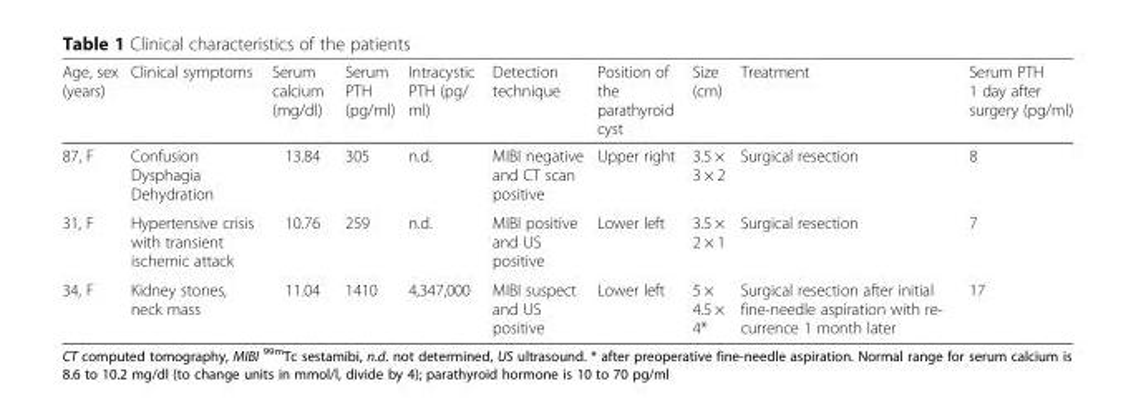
<table><thead><tr><td>Age, sex (years)</td><td>Clinical symptoms</td><td>Serum calcium (mg/dl)</td><td>Serum PTH (pg/ml)</td><td>Intracystic PTH (pg/ ml)</td><td>Detection technique</td><td>Position of the parathyroid cyst</td><td>Size (cm)</td><td>Treatment</td><td>Serum PTH 1 day after surgery (pg/ml)</td></tr></thead><tbody><tr><td>87, F</td><td>Confusion Dysphagia Dehydration</td><td>13.84</td><td>305</td><td>n.d.</td><td>MIBI negative and CT scan positive</td><td>Upper right</td><td>3.5 × 3 × 2</td><td>Surgical resection</td><td>8</td></tr><tr><td>31, F</td><td>Hypertensive crisis with transient ischemic attack</td><td>10.76</td><td>259</td><td>n.d.</td><td>MIBI positive and US positive</td><td>Lower left</td><td>3.5 × 2 × 1</td><td>Surgical resection</td><td>7</td></tr><tr><td>34, F</td><td>Kidney stones, neck mass</td><td>11.04</td><td>1410</td><td>4,347,000</td><td>MIBI suspect and US positive</td><td>Lower left</td><td>5 × 4.5 × 4*</td><td>Surgical resection after initial fine-needle aspiration with re- currence 1 month later</td><td>17</td></tr></tbody></table>